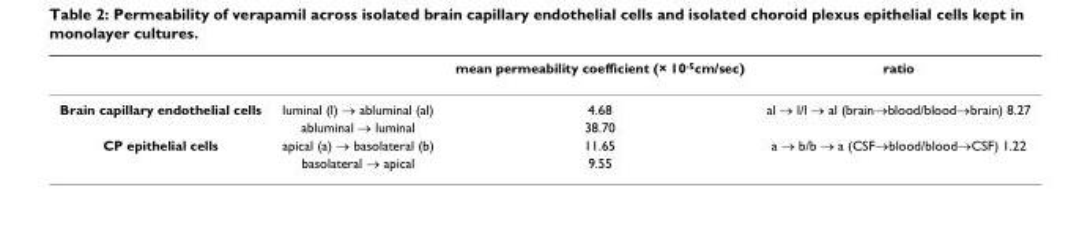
<table><thead><tr><td></td><td></td><td>mean permeability coefficient (× 10<sup>-5</sup>cm/sec)</td><td>ratio</td></tr></thead><tbody><tr><td rowspan="2">Brain capillary endothelial cells</td><td>luminal (l) → abluminal (al)</td><td>4.68</td><td>al → l/l → al (brain→blood/blood→brain) 8.27</td></tr><tr><td>abluminal → luminal</td><td>38.70</td><td></td></tr><tr><td rowspan="2">CP epithelial cells</td><td>apical (a) → basolateral (b)</td><td>11.65</td><td>a → b/b → a (CSF→blood/blood→CSF) 1.22</td></tr><tr><td>basolateral → apical</td><td>9.55</td><td></td></tr></tbody></table>